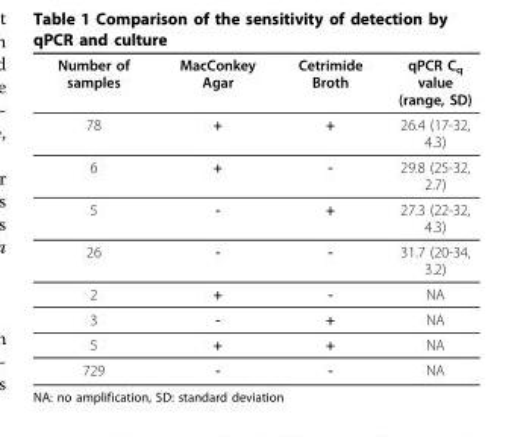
<table><thead><tr><td>Number of samples</td><td>MacConkey Agar</td><td>Cetrimide Broth</td><td>qPCR C<sub>q</sub> value (range, SD)</td></tr></thead><tbody><tr><td>78</td><td>+</td><td>+</td><td>26.4 (17-32, 4.3)</td></tr><tr><td>6</td><td>+</td><td>-</td><td>29.8 (25-32, 2.7)</td></tr><tr><td>5</td><td>-</td><td>+</td><td>27.3 (22-32, 4.3)</td></tr><tr><td>26</td><td>-</td><td>-</td><td>31.7 (20-34, 3.2)</td></tr><tr><td>2</td><td>+</td><td>-</td><td>NA</td></tr><tr><td>3</td><td>-</td><td>+</td><td>NA</td></tr><tr><td>5</td><td>+</td><td>+</td><td>NA</td></tr><tr><td>729</td><td>-</td><td>-</td><td>NA</td></tr></tbody></table>